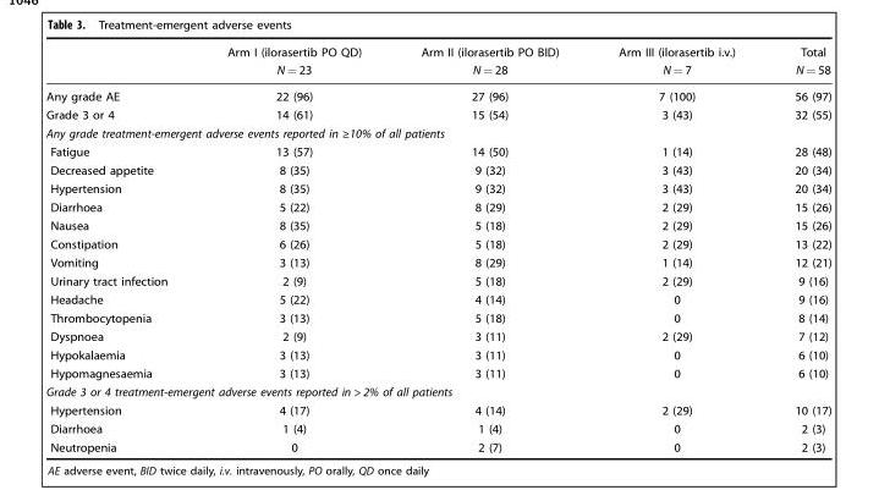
<table><thead><tr><td rowspan="2"></td><td rowspan="2">Arm I (ilorasertib PO QD) N = 23</td><td rowspan="2">Arm II (ilorasertib PO BID) N = 28</td><td rowspan="2">Arm III (ilorasertib i.v.) N = 7</td><td rowspan="2">Total N = 58</td></tr><tr></tr></thead><tbody><tr><td>Any grade AE</td><td>22 (96)</td><td>27 (96)</td><td>7 (100)</td><td>56 (97)</td></tr><tr><td>Grade 3 or 4</td><td>14 (61)</td><td>15 (54)</td><td>3 (43)</td><td>32 (55)</td></tr><tr><td colspan="5">Any grade treatment-emergent adverse events reported in ≥10% of all patients</td></tr><tr><td>Fatigue</td><td>13 (57)</td><td>14 (50)</td><td>1 (14)</td><td>28 (48)</td></tr><tr><td>Decreased appetite</td><td>8 (35)</td><td>9 (32)</td><td>3 (43)</td><td>20 (34)</td></tr><tr><td>Hypertension</td><td>8 (35)</td><td>9 (32)</td><td>3 (43)</td><td>20 (34)</td></tr><tr><td>Diarrhoea</td><td>5 (22)</td><td>8 (29)</td><td>2 (29)</td><td>15 (26)</td></tr><tr><td>Nausea</td><td>8 (35)</td><td>5 (18)</td><td>2 (29)</td><td>15 (26)</td></tr><tr><td>Constipation</td><td>6 (26)</td><td>5 (18)</td><td>2 (29)</td><td>13 (22)</td></tr><tr><td>Vomiting</td><td>3 (13)</td><td>8 (29)</td><td>1 (14)</td><td>12 (21)</td></tr><tr><td>Urinary tract infection</td><td>2 (9)</td><td>5 (18)</td><td>2 (29)</td><td>9 (16)</td></tr><tr><td>Headache</td><td>5 (22)</td><td>4 (14)</td><td>0</td><td>9 (16)</td></tr><tr><td>Thrombocytopenia</td><td>3 (13)</td><td>5 (18)</td><td>0</td><td>8 (14)</td></tr><tr><td>Dyspnoea</td><td>2 (9)</td><td>3 (11)</td><td>2 (29)</td><td>7 (12)</td></tr><tr><td>Hypokalaemia</td><td>3 (13)</td><td>3 (11)</td><td>0</td><td>6 (10)</td></tr><tr><td>Hypomagnesaemia</td><td>3 (13)</td><td>3 (11)</td><td>0</td><td>6 (10)</td></tr><tr><td colspan="5">Grade 3 or 4 treatment-emergent adverse events reported in &gt; 2% of all patients</td></tr><tr><td>Hypertension</td><td>4 (17)</td><td>4 (14)</td><td>2 (29)</td><td>10 (17)</td></tr><tr><td>Diarrhoea</td><td>1 (4)</td><td>1 (4)</td><td>0</td><td>2 (3)</td></tr><tr><td>Neutropenia</td><td>0</td><td>2 (7)</td><td>0</td><td>2 (3)</td></tr></tbody></table>